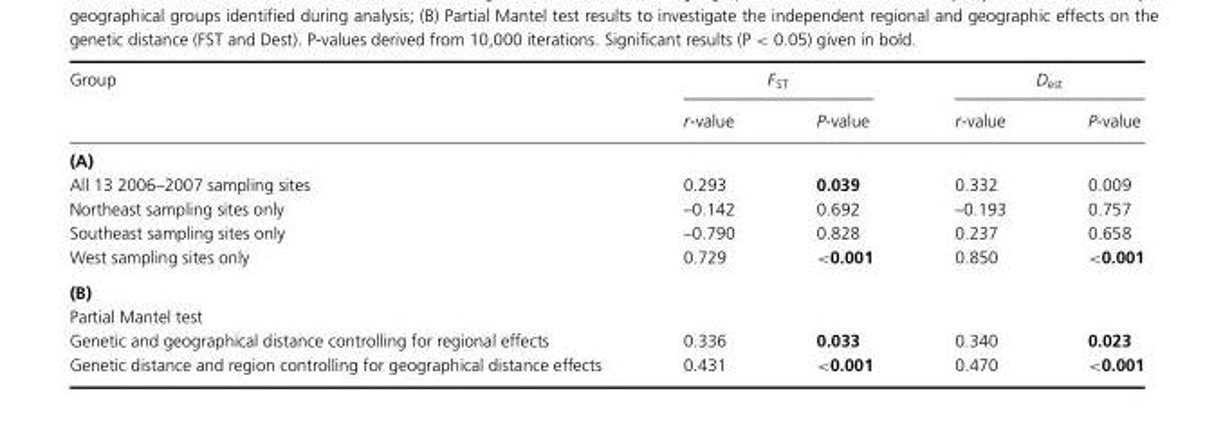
<table><thead><tr><td rowspan="2">Group</td><td colspan="2">F<sub>ST</sub></td><td colspan="2">D<sub>est</sub></td></tr><tr><td>r-value</td><td>P-value</td><td>r-value</td><td>P-value</td></tr></thead><tbody><tr><td colspan="5">(A)</td></tr><tr><td>All 13 2006–2007 sampling sites</td><td>0.293</td><td>0.039</td><td>0.332</td><td>0.009</td></tr><tr><td>Northeast sampling sites only</td><td>–0.142</td><td>0.692</td><td>–0.193</td><td>0.757</td></tr><tr><td>Southeast sampling sites only</td><td>–0.790</td><td>0.828</td><td>0.237</td><td>0.658</td></tr><tr><td>West sampling sites only</td><td>0.729</td><td>&lt;0.001</td><td>0.850</td><td>&lt;0.001</td></tr><tr><td colspan="5">(B)</td></tr><tr><td colspan="5">Partial Mantel test</td></tr><tr><td>Genetic and geographical distance controlling for regional effects</td><td>0.336</td><td>0.033</td><td>0.340</td><td>0.023</td></tr><tr><td>Genetic distance and region controlling for geographical distance effects</td><td>0.431</td><td>&lt;0.001</td><td>0.470</td><td>&lt;0.001</td></tr></tbody></table>